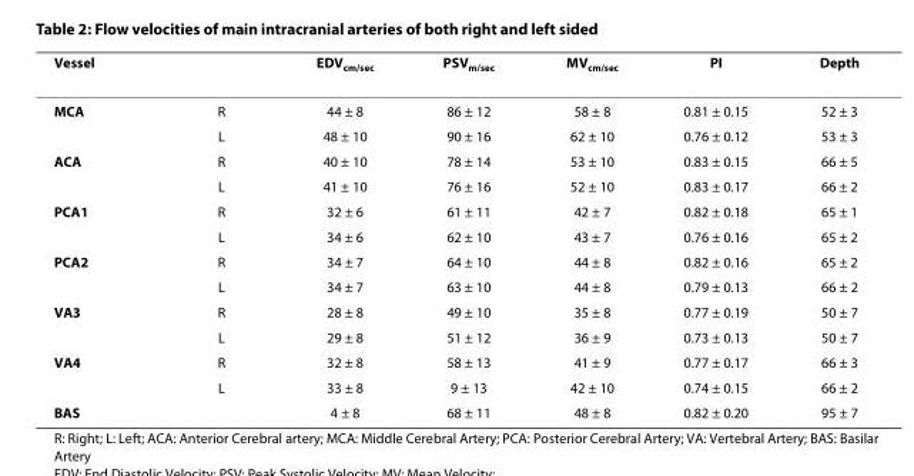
<table><thead><tr><td>Vessel</td><td></td><td>EDV<sub>cm/sec</sub></td><td>PSV<sub>m/sec</sub></td><td>MV<sub>cm/sec</sub></td><td>PI</td><td>Depth</td></tr></thead><tbody><tr><td rowspan="2">MCA</td><td>R</td><td>44 ± 8</td><td>86 ± 12</td><td>58 ± 8</td><td>0.81 ± 0.15</td><td>52 ± 3</td></tr><tr><td>L</td><td>48 ± 10</td><td>90 ± 16</td><td>62 ± 10</td><td>0.76 ± 0.12</td><td>53 ± 3</td></tr><tr><td rowspan="2">ACA</td><td>R</td><td>40 ± 10</td><td>78 ± 14</td><td>53 ± 10</td><td>0.83 ± 0.15</td><td>66 ± 5</td></tr><tr><td>L</td><td>41 ± 10</td><td>76 ± 16</td><td>52 ± 10</td><td>0.83 ± 0.17</td><td>66 ± 2</td></tr><tr><td rowspan="2">PCA1</td><td>R</td><td>32 ± 6</td><td>61 ± 11</td><td>42 ± 7</td><td>0.82 ± 0.18</td><td>65 ± 1</td></tr><tr><td>L</td><td>34 ± 6</td><td>62 ± 10</td><td>43 ± 7</td><td>0.76 ± 0.16</td><td>65 ± 2</td></tr><tr><td rowspan="2">PCA2</td><td>R</td><td>34 ± 7</td><td>64 ± 10</td><td>44 ± 8</td><td>0.82 ± 0.16</td><td>65 ± 2</td></tr><tr><td>L</td><td>34 ± 7</td><td>63 ± 10</td><td>44 ± 8</td><td>0.79 ± 0.13</td><td>66 ± 2</td></tr><tr><td rowspan="2">VA3</td><td>R</td><td>28 ± 8</td><td>49 ± 10</td><td>35 ± 8</td><td>0.77 ± 0.19</td><td>50 ± 7</td></tr><tr><td>L</td><td>29 ± 8</td><td>51 ± 12</td><td>36 ± 9</td><td>0.73 ± 0.13</td><td>50 ± 7</td></tr><tr><td rowspan="2">VA4</td><td>R</td><td>32 ± 8</td><td>58 ± 13</td><td>41 ± 9</td><td>0.77 ± 0.17</td><td>66 ± 3</td></tr><tr><td>L</td><td>33 ± 8</td><td>9 ± 13</td><td>42 ± 10</td><td>0.74 ± 0.15</td><td>66 ± 2</td></tr><tr><td>BAS</td><td></td><td>4 ± 8</td><td>68 ± 11</td><td>48 ± 8</td><td>0.82 ± 0.20</td><td>95 ± 7</td></tr></tbody></table>